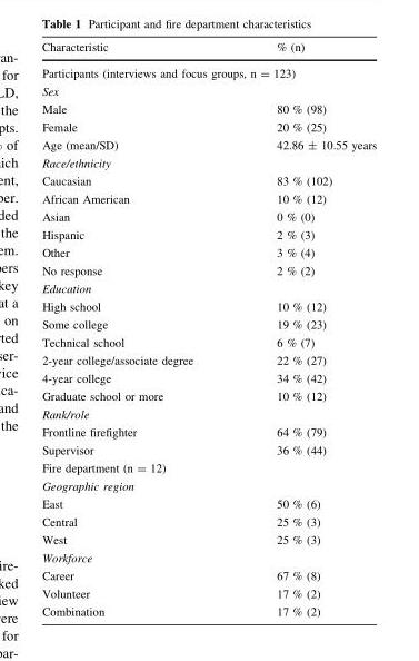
<table><thead><tr><td>Characteristic</td><td>% (n)</td></tr></thead><tbody><tr><td colspan="2">Participants (interviews and focus groups, n = 123)</td></tr><tr><td colspan="2">Sex</td></tr><tr><td>Male</td><td>80 % (98)</td></tr><tr><td>Female</td><td>20 % (25)</td></tr><tr><td>Age (mean/SD)</td><td>42.86 ± 10.55 years</td></tr><tr><td colspan="2">Race/ethnicity</td></tr><tr><td>Caucasian</td><td>83 % (102)</td></tr><tr><td>African American</td><td>10 % (12)</td></tr><tr><td>Asian</td><td>0 % (0)</td></tr><tr><td>Hispanic</td><td>2 % (3)</td></tr><tr><td>Other</td><td>3 % (4)</td></tr><tr><td>No response</td><td>2 % (2)</td></tr><tr><td colspan="2">Education</td></tr><tr><td>High school</td><td>10 % (12)</td></tr><tr><td>Some college</td><td>19 % (23)</td></tr><tr><td>Technical school</td><td>6 % (7)</td></tr><tr><td>2-year college/associate degree</td><td>22 % (27)</td></tr><tr><td>4-year college</td><td>34 % (42)</td></tr><tr><td>Graduate school or more</td><td>10 % (12)</td></tr><tr><td colspan="2">Rank/role</td></tr><tr><td>Frontline firefighter</td><td>64 % (79)</td></tr><tr><td>Supervisor</td><td>36 % (44)</td></tr><tr><td colspan="2">Fire department (n = 12)</td></tr><tr><td colspan="2">Geographic region</td></tr><tr><td>East</td><td>50 % (6)</td></tr><tr><td>Central</td><td>25 % (3)</td></tr><tr><td>West</td><td>25 % (3)</td></tr><tr><td colspan="2">Workforce</td></tr><tr><td>Career</td><td>67 % (8)</td></tr><tr><td>Volunteer</td><td>17 % (2)</td></tr><tr><td>Combination</td><td>17 % (2)</td></tr></tbody></table>